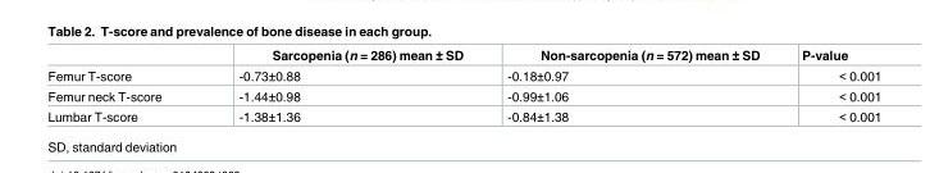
<table><thead><tr><td></td><td>Sarcopenia (n = 286) mean ± SD</td><td>Non-sarcopenia (n = 572) mean ± SD</td><td>P-value</td></tr></thead><tbody><tr><td>Femur T-score</td><td>-0.73±0.88</td><td>-0.18±0.97</td><td>&lt; 0.001</td></tr><tr><td>Femur neck T-score</td><td>-1.44±0.98</td><td>-0.99±1.06</td><td>&lt; 0.001</td></tr><tr><td>Lumbar T-score</td><td>-1.38±1.36</td><td>-0.84±1.38</td><td>&lt; 0.001</td></tr></tbody></table>